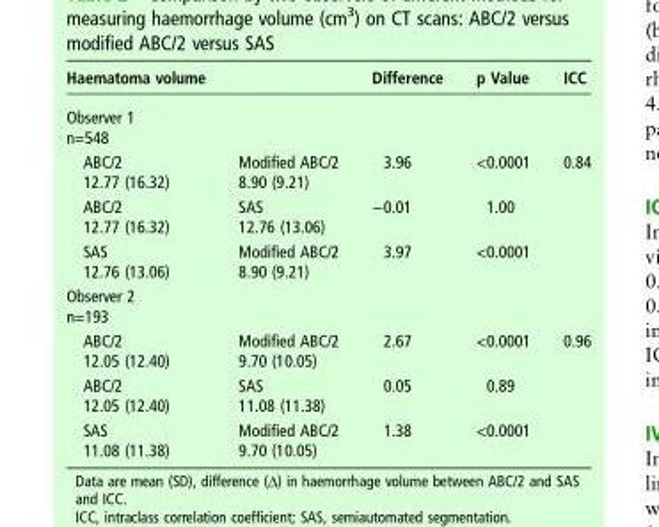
<table><thead><tr><td>Haematoma volume</td><td></td><td>Difference</td><td>p Value</td><td>ICC</td></tr></thead><tbody><tr><td colspan="5">Observer 1 n=548</td></tr><tr><td>ABC/2 12.77 (16.32)</td><td>Modified ABC/2 8.90 (9.21)</td><td>3.96</td><td>&lt;0.0001</td><td rowspan="3">0.84</td></tr><tr><td>ABC/2 12.77 (16.32)</td><td>SAS 12.76 (13.06)</td><td>−0.01</td><td>1.00</td></tr><tr><td>SAS 12.76 (13.06)</td><td>Modified ABC/2 8.90 (9.21)</td><td>3.97</td><td>&lt;0.0001</td></tr><tr><td colspan="5">Observer 2 n=193</td></tr><tr><td>ABC/2 12.05 (12.40)</td><td>Modified ABC/2 9.70 (10.05)</td><td>2.67</td><td>&lt;0.0001</td><td rowspan="3">0.96</td></tr><tr><td>ABC/2 12.05 (12.40)</td><td>SAS 11.08 (11.38)</td><td>0.05</td><td>0.89</td></tr><tr><td>SAS 11.08 (11.38)</td><td>Modified ABC/2 9.70 (10.05)</td><td>1.38</td><td>&lt;0.0001</td></tr></tbody></table>